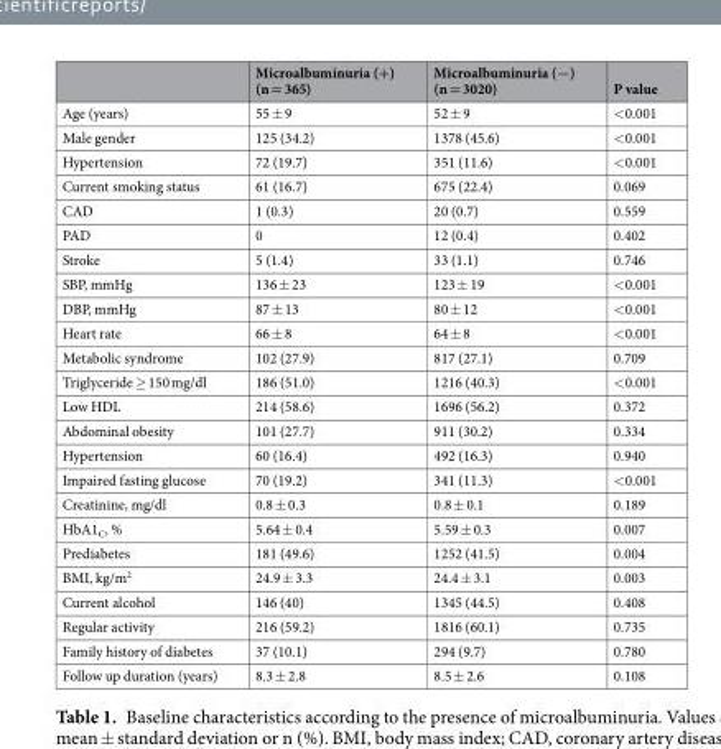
<table><thead><tr><td></td><td>Microalbuminuria (+) (n = 365)</td><td>Microalbuminuria (−) (n = 3020)</td><td>P value</td></tr></thead><tbody><tr><td>Age (years)</td><td>55 ± 9</td><td>52 ± 9</td><td>&lt;0.001</td></tr><tr><td>Male gender</td><td>125 (34.2)</td><td>1378 (45.6)</td><td>&lt;0.001</td></tr><tr><td>Hypertension</td><td>72 (19.7)</td><td>351 (11.6)</td><td>&lt;0.001</td></tr><tr><td>Current smoking status</td><td>61 (16.7)</td><td>675 (22.4)</td><td>0.069</td></tr><tr><td>CAD</td><td>1 (0.3)</td><td>20 (0.7)</td><td>0.559</td></tr><tr><td>PAD</td><td>0</td><td>12 (0.4)</td><td>0.402</td></tr><tr><td>Stroke</td><td>5 (1.4)</td><td>33 (1.1)</td><td>0.746</td></tr><tr><td>SBP, mmHg</td><td>136 ± 23</td><td>123 ± 19</td><td>&lt;0.001</td></tr><tr><td>DBP, mmHg</td><td>87 ± 13</td><td>80 ± 12</td><td>&lt;0.001</td></tr><tr><td>Heart rate</td><td>66 ± 8</td><td>64 ± 8</td><td>&lt;0.001</td></tr><tr><td>Metabolic syndrome</td><td>102 (27.9)</td><td>817 (27.1)</td><td>0.709</td></tr><tr><td>Triglyceride ≥ 150 mg/dl</td><td>186 (51.0)</td><td>1216 (40.3)</td><td>&lt;0.001</td></tr><tr><td>Low HDL</td><td>214 (58.6)</td><td>1696 (56.2)</td><td>0.372</td></tr><tr><td>Abdominal obesity</td><td>101 (27.7)</td><td>911 (30.2)</td><td>0.334</td></tr><tr><td>Hypertension</td><td>60 (16.4)</td><td>492 (16.3)</td><td>0.940</td></tr><tr><td>Impaired fasting glucose</td><td>70 (19.2)</td><td>341 (11.3)</td><td>&lt;0.001</td></tr><tr><td>Creatinine, mg/dl</td><td>0.8 ± 0.3</td><td>0.8 ± 0.1</td><td>0.189</td></tr><tr><td>HbA1<sub>C</sub>, %</td><td>5.64 ± 0.4</td><td>5.59 ± 0.3</td><td>0.007</td></tr><tr><td>Prediabetes</td><td>181 (49.6)</td><td>1252 (41.5)</td><td>0.004</td></tr><tr><td>BMI, kg/m<sup>2</sup></td><td>24.9 ± 3.3</td><td>24.4 ± 3.1</td><td>0.003</td></tr><tr><td>Current alcohol</td><td>146 (40)</td><td>1345 (44.5)</td><td>0.408</td></tr><tr><td>Regular activity</td><td>216 (59.2)</td><td>1816 (60.1)</td><td>0.735</td></tr><tr><td>Family history of diabetes</td><td>37 (10.1)</td><td>294 (9.7)</td><td>0.780</td></tr><tr><td>Follow up duration (years)</td><td>8.3 ± 2.8</td><td>8.5 ± 2.6</td><td>0.108</td></tr></tbody></table>